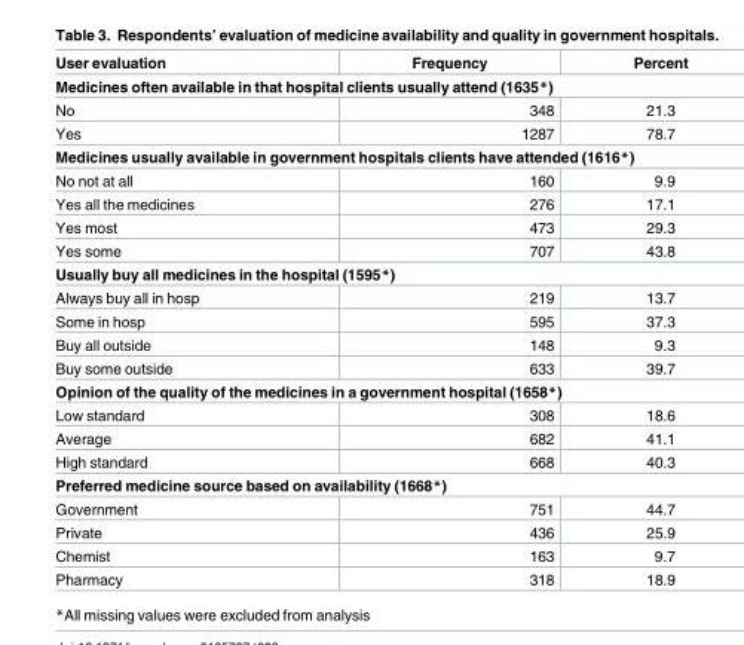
<table><thead><tr><td>User evaluation</td><td>Frequency</td><td>Percent</td></tr></thead><tbody><tr><td colspan="3">Medicines often available in that hospital clients usually attend (1635*)</td></tr><tr><td>No</td><td>348</td><td>21.3</td></tr><tr><td>Yes</td><td>1287</td><td>78.7</td></tr><tr><td colspan="3">Medicines usually available in government hospitals clients have attended (1616*)</td></tr><tr><td>No not at all</td><td>160</td><td>9.9</td></tr><tr><td>Yes all the medicines</td><td>276</td><td>17.1</td></tr><tr><td>Yes most</td><td>473</td><td>29.3</td></tr><tr><td>Yes some</td><td>707</td><td>43.8</td></tr><tr><td colspan="3">Usually buy all medicines in the hospital (1595*)</td></tr><tr><td>Always buy all in hosp</td><td>219</td><td>13.7</td></tr><tr><td>Some in hosp</td><td>595</td><td>37.3</td></tr><tr><td>Buy all outside</td><td>148</td><td>9.3</td></tr><tr><td>Buy some outside</td><td>633</td><td>39.7</td></tr><tr><td colspan="3">Opinion of the quality of the medicines in a government hospital (1658*)</td></tr><tr><td>Low standard</td><td>308</td><td>18.6</td></tr><tr><td>Average</td><td>682</td><td>41.1</td></tr><tr><td>High standard</td><td>668</td><td>40.3</td></tr><tr><td colspan="3">Preferred medicine source based on availability (1668*)</td></tr><tr><td>Government</td><td>751</td><td>44.7</td></tr><tr><td>Private</td><td>436</td><td>25.9</td></tr><tr><td>Chemist</td><td>163</td><td>9.7</td></tr><tr><td>Pharmacy</td><td>318</td><td>18.9</td></tr></tbody></table>